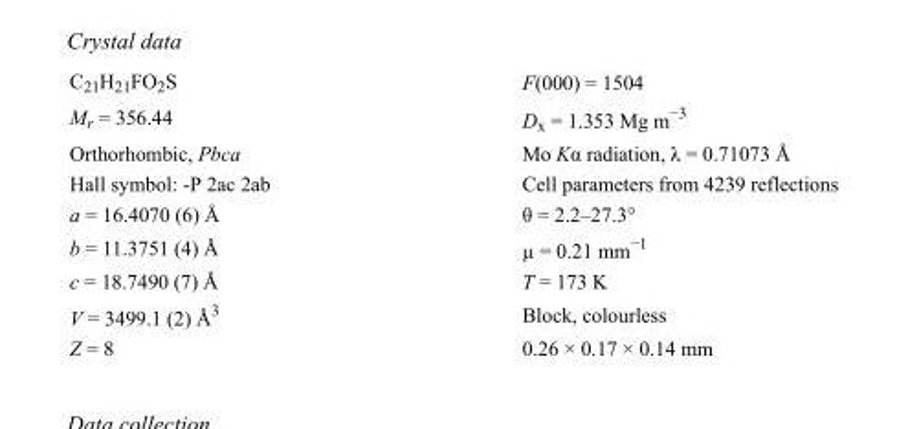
<table><tbody><tr><td>C<sub>21</sub>H<sub>21</sub>FO<sub>2</sub>S</td><td>F(000) = 1504</td></tr><tr><td>M<sub>r</sub> = 356.44</td><td>D<sub>x</sub> = 1.353 Mg m<sup>−3</sup></td></tr><tr><td>Orthorhombic, Pbca</td><td>Mo Kα radiation, λ = 0.71073 Å</td></tr><tr><td>Hall symbol: -P 2ac 2ab</td><td>Cell parameters from 4239 reflections</td></tr><tr><td>a = 16.4070 (6) Å</td><td>θ = 2.2–27.3°</td></tr><tr><td>b = 11.3751 (4) Å</td><td>µ = 0.21 mm<sup>−1</sup></td></tr><tr><td>c = 18.7490 (7) Å</td><td>T = 173 K</td></tr><tr><td>V = 3499.1 (2) Å<sup>3</sup></td><td>Block, colourless</td></tr><tr><td>Z = 8</td><td>0.26 × 0.17 × 0.14 mm</td></tr></tbody></table>